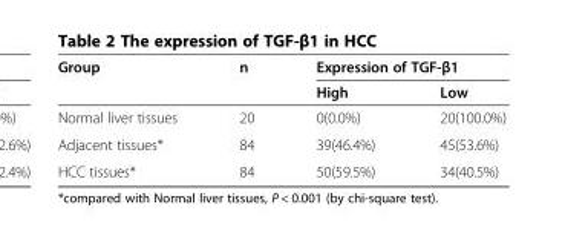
<table><thead><tr><td rowspan="2">Group</td><td rowspan="2">n</td><td colspan="2">Expression of TGF-β1</td></tr><tr><td>High</td><td>Low</td></tr></thead><tbody><tr><td>Normal liver tissues</td><td>20</td><td>0(0.0%)</td><td>20(100.0%)</td></tr><tr><td>Adjacent tissues*</td><td>84</td><td>39(46.4%)</td><td>45(53.6%)</td></tr><tr><td>HCC tissues*</td><td>84</td><td>50(59.5%)</td><td>34(40.5%)</td></tr></tbody></table>